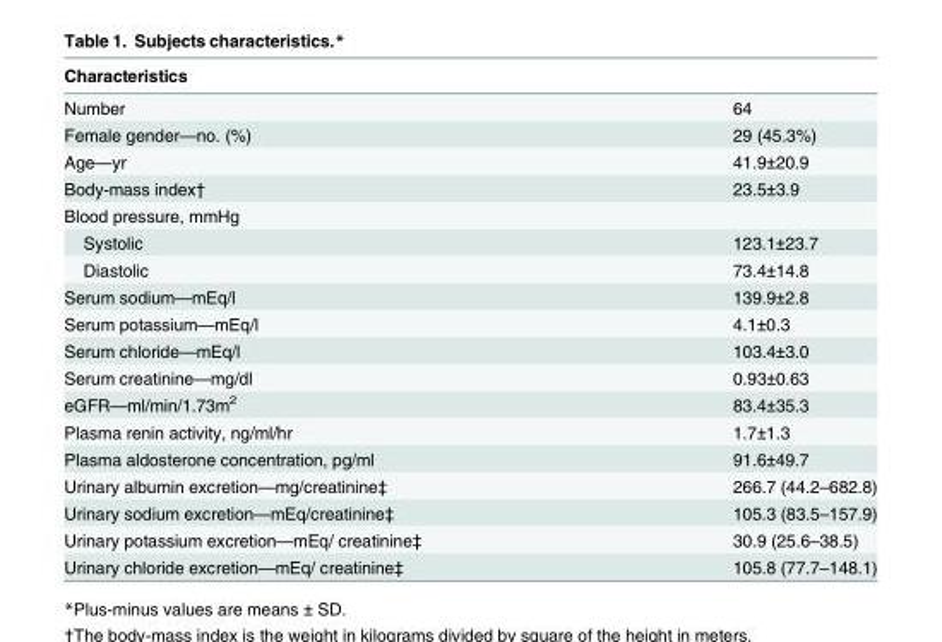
<table><thead><tr><td>Characteristics</td><td></td></tr></thead><tbody><tr><td>Number</td><td>64</td></tr><tr><td>Female gender—no. (%)</td><td>29 (45.3%)</td></tr><tr><td>Age—yr</td><td>41.9±20.9</td></tr><tr><td>Body-mass index†</td><td>23.5±3.9</td></tr><tr><td colspan="2">Blood pressure, mmHg</td></tr><tr><td>Systolic</td><td>123.1±23.7</td></tr><tr><td>Diastolic</td><td>73.4±14.8</td></tr><tr><td>Serum sodium—mEq/l</td><td>139.9±2.8</td></tr><tr><td>Serum potassium—mEq/l</td><td>4.1±0.3</td></tr><tr><td>Serum chloride—mEq/l</td><td>103.4±3.0</td></tr><tr><td>Serum creatinine—mg/dl</td><td>0.93±0.63</td></tr><tr><td>eGFR—ml/min/1.73m<sup>2</sup></td><td>83.4±35.3</td></tr><tr><td>Plasma renin activity, ng/ml/hr</td><td>1.7±1.3</td></tr><tr><td>Plasma aldosterone concentration, pg/ml</td><td>91.6±49.7</td></tr><tr><td>Urinary albumin excretion—mg/creatinine‡</td><td>266.7 (44.2–682.8)</td></tr><tr><td>Urinary sodium excretion—mEq/creatinine‡</td><td>105.3 (83.5–157.9)</td></tr><tr><td>Urinary potassium excretion—mEq/ creatinine‡</td><td>30.9 (25.6–38.5)</td></tr><tr><td>Urinary chloride excretion—mEq/ creatinine‡</td><td>105.8 (77.7–148.1)</td></tr></tbody></table>